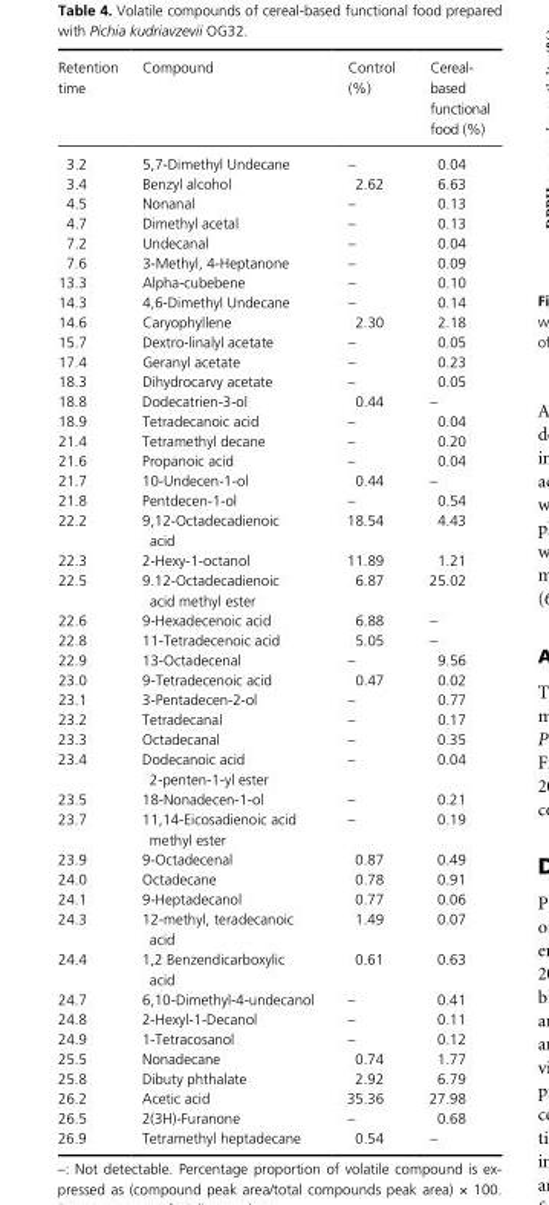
<table><thead><tr><td>Retention time</td><td>Compound</td><td>Control (%)</td><td>Cereal- based functional food (%)</td></tr></thead><tbody><tr><td>3.2</td><td>5,7- Dimethyl Undecane</td><td>–</td><td>0.04</td></tr><tr><td>3.4</td><td>Benzyl alcohol</td><td>2.62</td><td>6.63</td></tr><tr><td>4.5</td><td>Nonanal</td><td>–</td><td>0.13</td></tr><tr><td>4.7</td><td>Dimethyl acetal</td><td>–</td><td>0.13</td></tr><tr><td>7.2</td><td>Undecanal</td><td>–</td><td>0.04</td></tr><tr><td>7.6</td><td>3- Methyl, 4- Heptanone</td><td>–</td><td>0.09</td></tr><tr><td>13.3</td><td>Alpha- cubebene</td><td>–</td><td>0.10</td></tr><tr><td>14.3</td><td>4,6- Dimethyl Undecane</td><td>–</td><td>0.14</td></tr><tr><td>14.6</td><td>Caryophyllene</td><td>2.30</td><td>2.18</td></tr><tr><td>15.7</td><td>Dextro- linalyl acetate</td><td>–</td><td>0.05</td></tr><tr><td>17.4</td><td>Geranyl acetate</td><td>–</td><td>0.23</td></tr><tr><td>18.3</td><td>Dihydrocarvy acetate</td><td>–</td><td>0.05</td></tr><tr><td>18.8</td><td>Dodecatrien- 3- ol</td><td>0.44</td><td>–</td></tr><tr><td>18.9</td><td>Tetradecanoic acid</td><td>–</td><td>0.04</td></tr><tr><td>21.4</td><td>Tetramethyl decane</td><td>–</td><td>0.20</td></tr><tr><td>21.6</td><td>Propanoic acid</td><td>–</td><td>0.04</td></tr><tr><td>21.7</td><td>10- Undecen- 1- ol</td><td>0.44</td><td>–</td></tr><tr><td>21.8</td><td>Pentdecen- 1- ol</td><td>–</td><td>0.54</td></tr><tr><td>22.2</td><td>9,12- Octadecadienoic acid</td><td>18.54</td><td>4.43</td></tr><tr><td>22.3</td><td>2- Hexy- 1- octanol</td><td>11.89</td><td>1.21</td></tr><tr><td>22.5</td><td>9.12- Octadecadienoic acid methyl ester</td><td>6.87</td><td>25.02</td></tr><tr><td>22.6</td><td>9- Hexadecenoic acid</td><td>6.88</td><td>–</td></tr><tr><td>22.8</td><td>11- Tetradecenoic acid</td><td>5.05</td><td>–</td></tr><tr><td>22.9</td><td>13- Octadecenal</td><td>–</td><td>9.56</td></tr><tr><td>23.0</td><td>9- Tetradecenoic acid</td><td>0.47</td><td>0.02</td></tr><tr><td>23.1</td><td>3- Pentadecen- 2- ol</td><td>–</td><td>0.77</td></tr><tr><td>23.2</td><td>Tetradecanal</td><td>–</td><td>0.17</td></tr><tr><td>23.3</td><td>Octadecanal</td><td>–</td><td>0.35</td></tr><tr><td>23.4</td><td>Dodecanoic acid 2- penten- 1- yl ester</td><td>–</td><td>0.04</td></tr><tr><td>23.5</td><td>18- Nonadecen- 1- ol</td><td>–</td><td>0.21</td></tr><tr><td>23.7</td><td>11,14- Eicosadienoic acid methyl ester</td><td>–</td><td>0.19</td></tr><tr><td>23.9</td><td>9- Octadecenal</td><td>0.87</td><td>0.49</td></tr><tr><td>24.0</td><td>Octadecane</td><td>0.78</td><td>0.91</td></tr><tr><td>24.1</td><td>9- Heptadecanol</td><td>0.77</td><td>0.06</td></tr><tr><td>24.3</td><td>12- methyl, teradecanoic acid</td><td>1.49</td><td>0.07</td></tr><tr><td>24.4</td><td>1,2 Benzendicarboxylic acid</td><td>0.61</td><td>0.63</td></tr><tr><td>24.7</td><td>6,10- Dimethyl- 4- undecanol</td><td>–</td><td>0.41</td></tr><tr><td>24.8</td><td>2- Hexyl- 1- Decanol</td><td>–</td><td>0.11</td></tr><tr><td>24.9</td><td>1- Tetracosanol</td><td>–</td><td>0.12</td></tr><tr><td>25.5</td><td>Nonadecane</td><td>0.74</td><td>1.77</td></tr><tr><td>25.8</td><td>Dibuty phthalate</td><td>2.92</td><td>6.79</td></tr><tr><td>26.2</td><td>Acetic acid</td><td>35.36</td><td>27.98</td></tr><tr><td>26.5</td><td>2(3H)- Furanone</td><td>–</td><td>0.68</td></tr><tr><td>26.9</td><td>Tetramethyl heptadecane</td><td>0.54</td><td>–</td></tr></tbody></table>